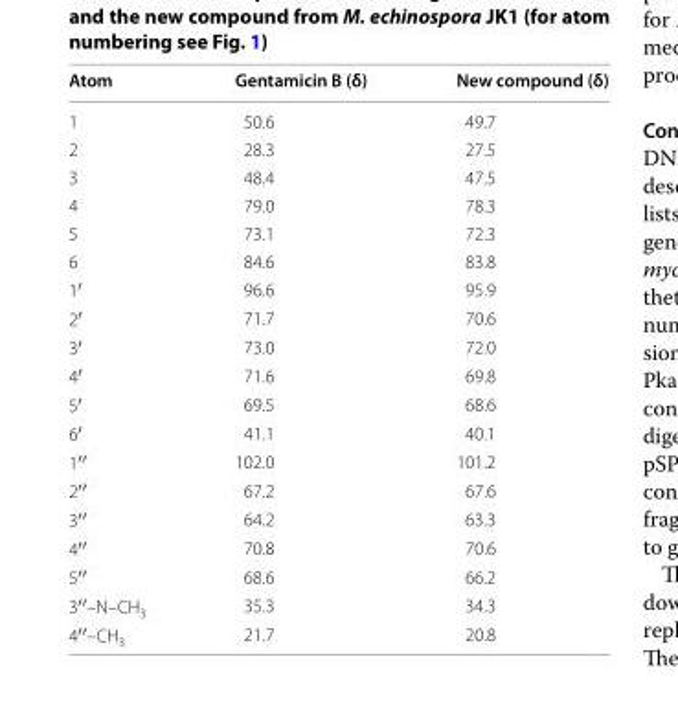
<table><thead><tr><td>Atom</td><td>Gentamicin B (δ)</td><td>New compound (δ)</td></tr></thead><tbody><tr><td>1</td><td>50.6</td><td>49.7</td></tr><tr><td>2</td><td>28.3</td><td>27.5</td></tr><tr><td>3</td><td>48.4</td><td>47.5</td></tr><tr><td>4</td><td>79.0</td><td>78.3</td></tr><tr><td>5</td><td>73.1</td><td>72.3</td></tr><tr><td>6</td><td>84.6</td><td>83.8</td></tr><tr><td>1′</td><td>96.6</td><td>95.9</td></tr><tr><td>2′</td><td>71.7</td><td>70.6</td></tr><tr><td>3′</td><td>73.0</td><td>72.0</td></tr><tr><td>4′</td><td>71.6</td><td>69.8</td></tr><tr><td>5′</td><td>69.5</td><td>68.6</td></tr><tr><td>6′</td><td>41.1</td><td>40.1</td></tr><tr><td>1′′</td><td>102.0</td><td>101.2</td></tr><tr><td>2′′</td><td>67.2</td><td>67.6</td></tr><tr><td>3′′</td><td>64.2</td><td>63.3</td></tr><tr><td>4′′</td><td>70.8</td><td>70.6</td></tr><tr><td>5′′</td><td>68.6</td><td>66.2</td></tr><tr><td>3′′–N–CH<sub>3</sub></td><td>35.3</td><td>34.3</td></tr><tr><td>4′′–CH<sub>3</sub></td><td>21.7</td><td>20.8</td></tr></tbody></table>